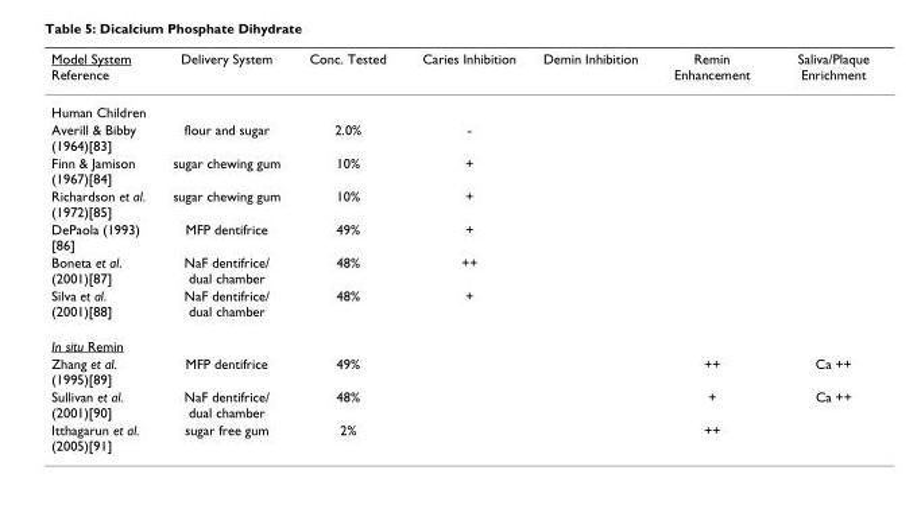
<table><thead><tr><td>Model System Reference</td><td>Delivery System</td><td>Conc. Tested</td><td>Caries Inhibition</td><td>Demin Inhibition</td><td>Remin Enhancement</td><td>Saliva/Plaque Enrichment</td></tr></thead><tbody><tr><td colspan="7">Human Children</td></tr><tr><td>Averill &amp; Bibby (1964)[83]</td><td>flour and sugar</td><td>2.0%</td><td>-</td><td></td><td></td><td></td></tr><tr><td>Finn &amp; Jamison (1967)[84]</td><td>sugar chewing gum</td><td>10%</td><td>+</td><td></td><td></td><td></td></tr><tr><td>Richardson et al. (1972)[85]</td><td>sugar chewing gum</td><td>10%</td><td>+</td><td></td><td></td><td></td></tr><tr><td>DePaola (1993) [86]</td><td>MFP dentifrice</td><td>49%</td><td>+</td><td></td><td></td><td></td></tr><tr><td>Boneta et al. (2001)[87]</td><td>NaF dentifrice/ dual chamber</td><td>48%</td><td>++</td><td></td><td></td><td></td></tr><tr><td>Silva et al. (2001)[88]</td><td>NaF dentifrice/ dual chamber</td><td>48%</td><td>+</td><td></td><td></td><td></td></tr><tr><td colspan="7">In situ Remin</td></tr><tr><td>Zhang et al. (1995)[89]</td><td>MFP dentifrice</td><td>49%</td><td></td><td></td><td>++</td><td>Ca ++</td></tr><tr><td>Sullivan et al. (2001)[90]</td><td>NaF dentifrice/ dual chamber</td><td>48%</td><td></td><td></td><td>+</td><td>Ca ++</td></tr><tr><td>Itthagarun et al. (2005)[91]</td><td>sugar free gum</td><td>2%</td><td></td><td></td><td>++</td><td></td></tr></tbody></table>